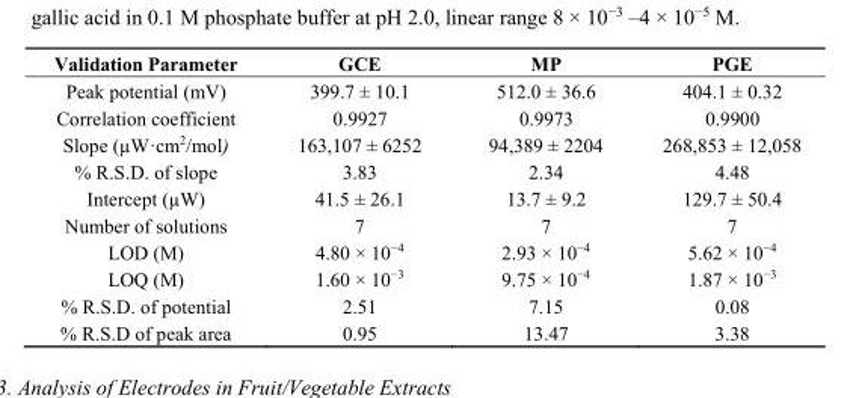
<table><thead><tr><td>Validation Parameter</td><td>GCE</td><td>MP</td><td>PGE</td></tr></thead><tbody><tr><td>Peak potential (mV)</td><td>399.7 ± 10.1</td><td>512.0 ± 36.6</td><td>404.1 ± 0.32</td></tr><tr><td>Correlation coefficient</td><td>0.9927</td><td>0.9973</td><td>0.9900</td></tr><tr><td>Slope (µW·cm<sup>2</sup>/mol)</td><td>163,107 ± 6252</td><td>94,389 ± 2204</td><td>268,853 ± 12,058</td></tr><tr><td>% R.S.D. of slope</td><td>3.83</td><td>2.34</td><td>4.48</td></tr><tr><td>Intercept (µW)</td><td>41.5 ± 26.1</td><td>13.7 ± 9.2</td><td>129.7 ± 50.4</td></tr><tr><td>Number of solutions</td><td>7</td><td>7</td><td>7</td></tr><tr><td>LOD (M)</td><td>4.80 × 10<sup>−4</sup></td><td>2.93 × 10<sup>−4</sup></td><td>5.62 × 10<sup>−4</sup></td></tr><tr><td>LOQ (M)</td><td>1.60 × 10<sup>−3</sup></td><td>9.75 × 10<sup>−4</sup></td><td>1.87 × 10<sup>−3</sup></td></tr><tr><td>% R.S.D. of potential</td><td>2.51</td><td>7.15</td><td>0.08</td></tr><tr><td>% R.S.D of peak area</td><td>0.95</td><td>13.47</td><td>3.38</td></tr></tbody></table>